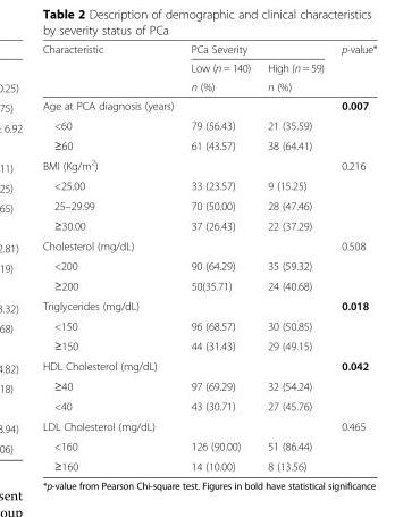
<table><thead><tr><td rowspan="3">Characteristic</td><td colspan="2">PCa Severity</td><td rowspan="3">p-value*</td></tr><tr><td rowspan="2">Low (n = 140) n (%)</td><td rowspan="2">High (n = 59) n (%)</td></tr><tr></tr></thead><tbody><tr><td>Age at PCA diagnosis (years)</td><td></td><td></td><td>0.007</td></tr><tr><td>&lt;60</td><td>79 (56.43)</td><td>21 (35.59)</td><td></td></tr><tr><td>≥60</td><td>61 (43.57)</td><td>38 (64.41)</td><td></td></tr><tr><td>BMI (Kg/m<sup>2</sup>)</td><td></td><td></td><td>0.216</td></tr><tr><td>&lt;25.00</td><td>33 (23.57)</td><td>9 (15.25)</td><td></td></tr><tr><td>25–29.99</td><td>70 (50.00)</td><td>28 (47.46)</td><td></td></tr><tr><td>≥30.00</td><td>37 (26.43)</td><td>22 (37.29)</td><td></td></tr><tr><td>Cholesterol (mg/dL)</td><td></td><td></td><td>0.508</td></tr><tr><td>&lt;200</td><td>90 (64.29)</td><td>35 (59.32)</td><td></td></tr><tr><td>≥200</td><td>50(35.71)</td><td>24 (40.68)</td><td></td></tr><tr><td>Triglycerides (mg/dL)</td><td></td><td></td><td>0.018</td></tr><tr><td>&lt;150</td><td>96 (68.57)</td><td>30 (50.85)</td><td></td></tr><tr><td>≥150</td><td>44 (31.43)</td><td>29 (49.15)</td><td></td></tr><tr><td>HDL Cholesterol (mg/dL)</td><td></td><td></td><td>0.042</td></tr><tr><td>≥40</td><td>97 (69.29)</td><td>32 (54.24)</td><td></td></tr><tr><td>&lt;40</td><td>43 (30.71)</td><td>27 (45.76)</td><td></td></tr><tr><td>LDL Cholesterol (mg/dL)</td><td></td><td></td><td>0.465</td></tr><tr><td>&lt;160</td><td>126 (90.00)</td><td>51 (86.44)</td><td></td></tr><tr><td>≥160</td><td>14 (10.00)</td><td>8 (13.56)</td><td></td></tr></tbody></table>